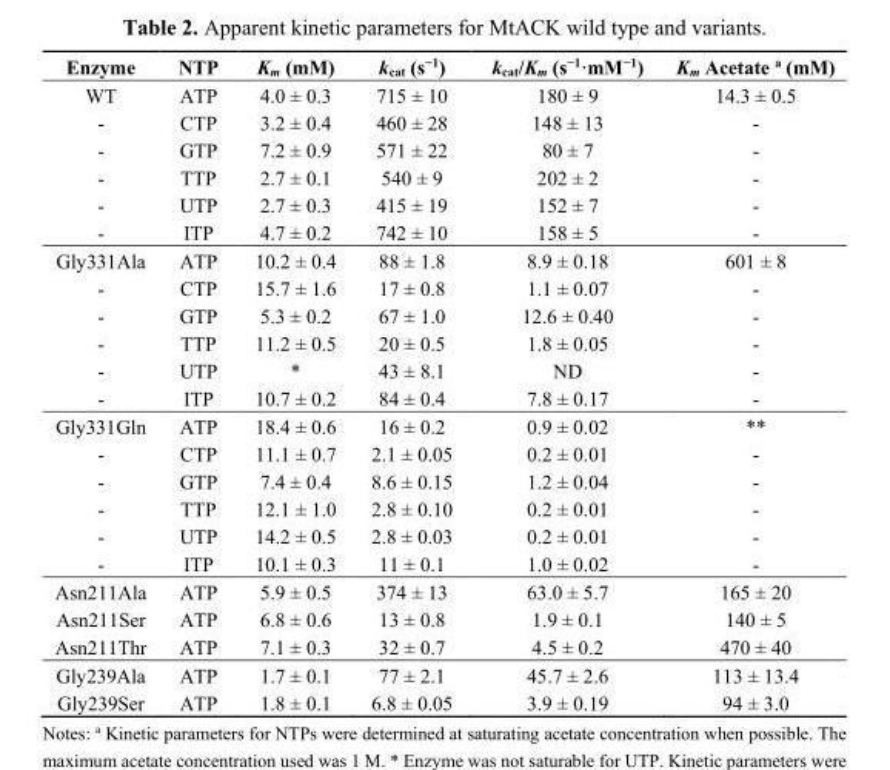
<table><thead><tr><td>Enzyme</td><td>NTP</td><td>K<sub>m</sub> (mM)</td><td>k<sub>cat</sub> (s<sup>−1</sup>)</td><td>k<sub>cat</sub>/K<sub>m</sub> (s<sup>−1</sup>·mM<sup>−1</sup>)</td><td>K<sub>m</sub> Acetate <sup>a</sup> (mM)</td></tr></thead><tbody><tr><td>WT</td><td>ATP</td><td>4.0 ± 0.3</td><td>715 ± 10</td><td>180 ± 9</td><td>14.3 ± 0.5</td></tr><tr><td>-</td><td>CTP</td><td>3.2 ± 0.4</td><td>460 ± 28</td><td>148 ± 13</td><td>-</td></tr><tr><td>-</td><td>GTP</td><td>7.2 ± 0.9</td><td>571 ± 22</td><td>80 ± 7</td><td>-</td></tr><tr><td>-</td><td>TTP</td><td>2.7 ± 0.1</td><td>540 ± 9</td><td>202 ± 2</td><td>-</td></tr><tr><td>-</td><td>UTP</td><td>2.7 ± 0.3</td><td>415 ± 19</td><td>152 ± 7</td><td>-</td></tr><tr><td>-</td><td>ITP</td><td>4.7 ± 0.2</td><td>742 ± 10</td><td>158 ± 5</td><td>-</td></tr><tr><td>Gly331Ala</td><td>ATP</td><td>10.2 ± 0.4</td><td>88 ± 1.8</td><td>8.9 ± 0.18</td><td>601 ± 8</td></tr><tr><td>-</td><td>CTP</td><td>15.7 ± 1.6</td><td>17 ± 0.8</td><td>1.1 ± 0.07</td><td>-</td></tr><tr><td>-</td><td>GTP</td><td>5.3 ± 0.2</td><td>67 ± 1.0</td><td>12.6 ± 0.40</td><td>-</td></tr><tr><td>-</td><td>TTP</td><td>11.2 ± 0.5</td><td>20 ± 0.5</td><td>1.8 ± 0.05</td><td>-</td></tr><tr><td>-</td><td>UTP</td><td>*</td><td>43 ± 8.1</td><td>ND</td><td>-</td></tr><tr><td>-</td><td>ITP</td><td>10.7 ± 0.2</td><td>84 ± 0.4</td><td>7.8 ± 0.17</td><td>-</td></tr><tr><td>Gly331Gln</td><td>ATP</td><td>18.4 ± 0.6</td><td>16 ± 0.2</td><td>0.9 ± 0.02</td><td>**</td></tr><tr><td>-</td><td>CTP</td><td>11.1 ± 0.7</td><td>2.1 ± 0.05</td><td>0.2 ± 0.01</td><td>-</td></tr><tr><td>-</td><td>GTP</td><td>7.4 ± 0.4</td><td>8.6 ± 0.15</td><td>1.2 ± 0.04</td><td>-</td></tr><tr><td>-</td><td>TTP</td><td>12.1 ± 1.0</td><td>2.8 ± 0.10</td><td>0.2 ± 0.01</td><td>-</td></tr><tr><td>-</td><td>UTP</td><td>14.2 ± 0.5</td><td>2.8 ± 0.03</td><td>0.2 ± 0.01</td><td>-</td></tr><tr><td>-</td><td>ITP</td><td>10.1 ± 0.3</td><td>11 ± 0.1</td><td>1.0 ± 0.02</td><td>-</td></tr><tr><td>Asn211Ala</td><td>ATP</td><td>5.9 ± 0.5</td><td>374 ± 13</td><td>63.0 ± 5.7</td><td>165 ± 20</td></tr><tr><td>Asn211Ser</td><td>ATP</td><td>6.8 ± 0.6</td><td>13 ± 0.8</td><td>1.9 ± 0.1</td><td>140 ± 5</td></tr><tr><td>Asn211Thr</td><td>ATP</td><td>7.1 ± 0.3</td><td>32 ± 0.7</td><td>4.5 ± 0.2</td><td>470 ± 40</td></tr><tr><td>Gly239Ala</td><td>ATP</td><td>1.7 ± 0.1</td><td>77 ± 2.1</td><td>45.7 ± 2.6</td><td>113 ± 13.4</td></tr><tr><td>Gly239Ser</td><td>ATP</td><td>1.8 ± 0.1</td><td>6.8 ± 0.05</td><td>3.9 ± 0.19</td><td>94 ± 3.0</td></tr></tbody></table>